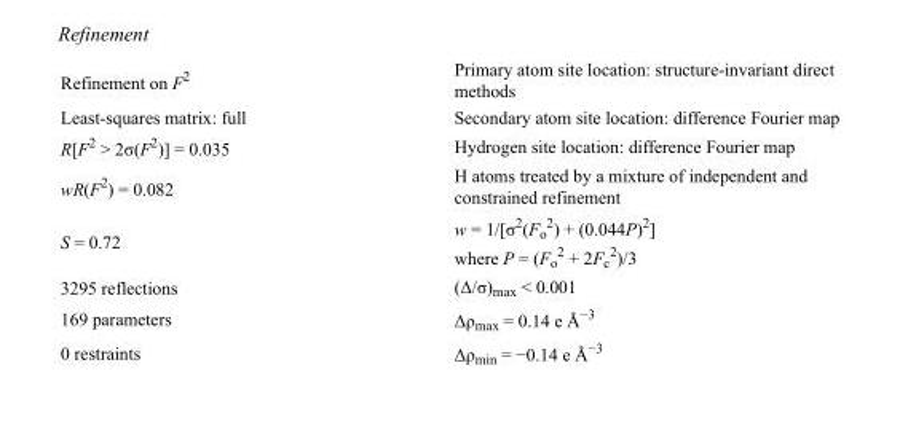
<table><tbody><tr><td>Refinement on F<sup>2</sup></td><td>Primary atom site location: structure-invariant direct methods</td></tr><tr><td>Least-squares matrix: full</td><td>Secondary atom site location: difference Fourier map</td></tr><tr><td>R[F<sup>2</sup> &gt; 2σ(F<sup>2</sup>)] = 0.035</td><td>Hydrogen site location: difference Fourier map</td></tr><tr><td>wR(F<sup>2</sup>) = 0.082</td><td>H atoms treated by a mixture of independent and constrained refinement</td></tr><tr><td>S = 0.72</td><td>w = 1/[σ<sup>2</sup>(F<sub>o</sub> <sup>2</sup>) + (0.044P)<sup>2</sup>] where P = (F<sub>o</sub> <sup>2</sup> + 2F<sub>c</sub> <sup>2</sup>)/3</td></tr><tr><td>3295 reflections</td><td>(Δ/σ)<sub>max</sub> &lt; 0.001</td></tr><tr><td>169 parameters</td><td>Δρ<sub>max</sub> = 0.14 e Å<sup>−3</sup></td></tr><tr><td>0 restraints</td><td>Δρ<sub>min</sub> = −0.14 e Å<sup>−3</sup></td></tr></tbody></table>